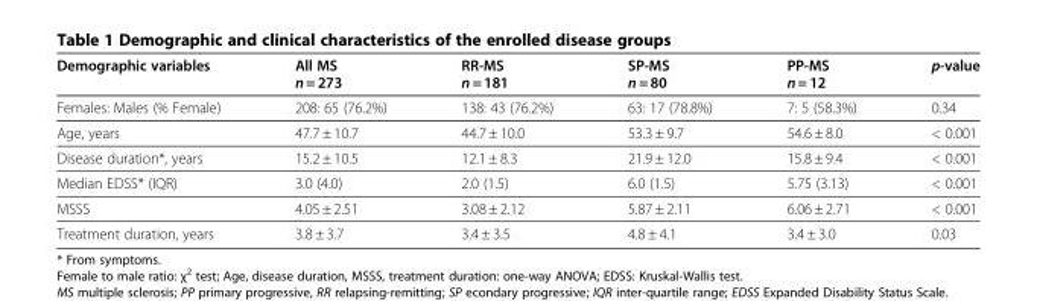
<table><thead><tr><td>Demographic variables</td><td>All MS n = 273</td><td>RR-MS n = 181</td><td>SP-MS n = 80</td><td>PP-MS n = 12</td><td>p-value</td></tr></thead><tbody><tr><td>Females: Males (% Female)</td><td>208: 65 (76.2%)</td><td>138: 43 (76.2%)</td><td>63: 17 (78.8%)</td><td>7: 5 (58.3%)</td><td>0.34</td></tr><tr><td>Age, years</td><td>47.7 ± 10.7</td><td>44.7 ± 10.0</td><td>53.3 ± 9.7</td><td>54.6 ± 8.0</td><td>&lt; 0.001</td></tr><tr><td>Disease duration*, years</td><td>15.2 ± 10.5</td><td>12.1 ± 8.3</td><td>21.9 ± 12.0</td><td>15.8 ± 9.4</td><td>&lt; 0.001</td></tr><tr><td>Median EDSS* (IQR)</td><td>3.0 (4.0)</td><td>2.0 (1.5)</td><td>6.0 (1.5)</td><td>5.75 (3.13)</td><td>&lt; 0.001</td></tr><tr><td>MSSS</td><td>4.05 ± 2.51</td><td>3.08 ± 2.12</td><td>5.87 ± 2.11</td><td>6.06 ± 2.71</td><td>&lt; 0.001</td></tr><tr><td>Treatment duration, years</td><td>3.8 ± 3.7</td><td>3.4 ± 3.5</td><td>4.8 ± 4.1</td><td>3.4 ± 3.0</td><td>0.03</td></tr></tbody></table>